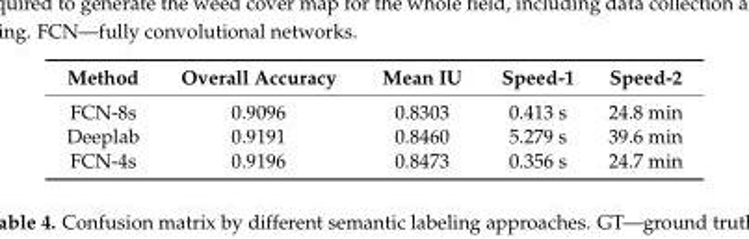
<table><thead><tr><td>Method</td><td>Overall Accuracy</td><td>Mean IU</td><td>Speed-1</td><td>Speed-2</td></tr></thead><tbody><tr><td>FCN-8s</td><td>0.9096</td><td>0.8303</td><td>0.413 s</td><td>24.8 min</td></tr><tr><td>Deeplab</td><td>0.9191</td><td>0.8460</td><td>5.279 s</td><td>39.6 min</td></tr><tr><td>FCN-4s</td><td>0.9196</td><td>0.8473</td><td>0.356 s</td><td>24.7 min</td></tr></tbody></table>